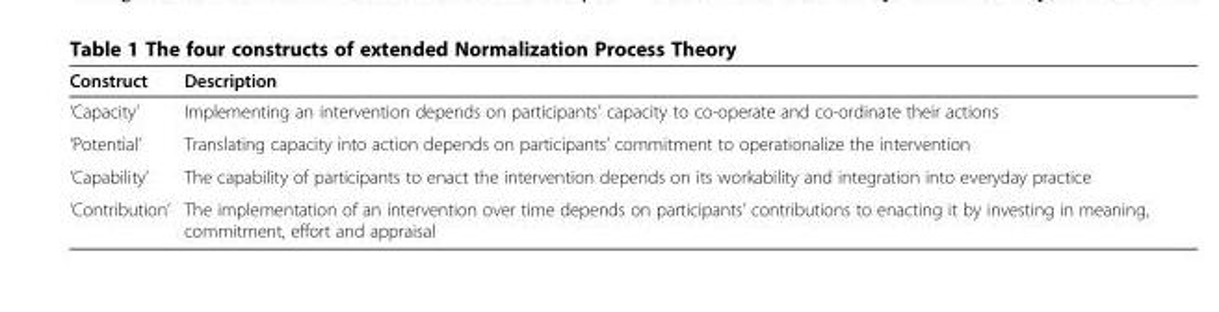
<table><thead><tr><td>Construct</td><td>Description</td></tr></thead><tbody><tr><td>‘Capacity’</td><td>Implementing an intervention depends on participants’ capacity to co-operate and co-ordinate their actions</td></tr><tr><td>‘Potential’</td><td>Translating capacity into action depends on participants’ commitment to operationalize the intervention</td></tr><tr><td>‘Capability’</td><td>The capability of participants to enact the intervention depends on its workability and integration into everyday practice</td></tr><tr><td>‘Contribution’</td><td>The implementation of an intervention over time depends on participants’ contributions to enacting it by investing in meaning, commitment, effort and appraisal</td></tr></tbody></table>